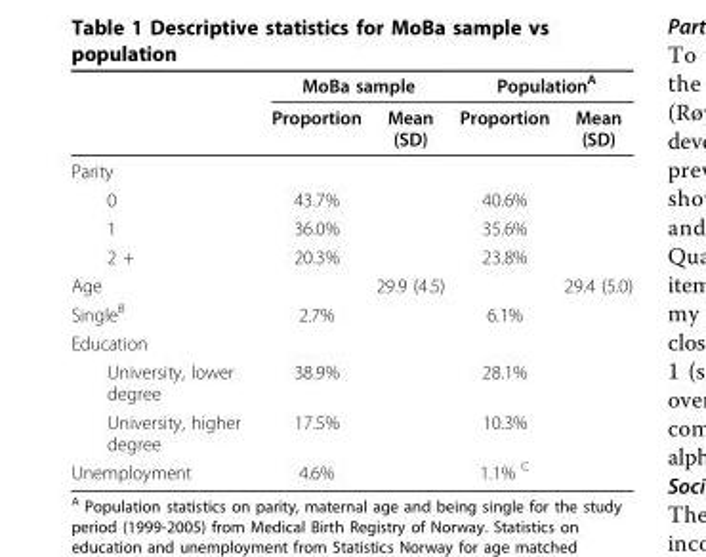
<table><thead><tr><td rowspan="2"></td><td colspan="2">MoBa sample</td><td colspan="2">Population<sup>A</sup></td></tr><tr><td>Proportion</td><td>Mean (SD)</td><td>Proportion</td><td>Mean (SD)</td></tr></thead><tbody><tr><td colspan="5">Parity</td></tr><tr><td>0</td><td>43.7%</td><td></td><td>40.6%</td><td></td></tr><tr><td>1</td><td>36.0%</td><td></td><td>35.6%</td><td></td></tr><tr><td>2 +</td><td>20.3%</td><td></td><td>23.8%</td><td></td></tr><tr><td>Age</td><td></td><td>29.9 (4.5)</td><td></td><td>29.4 (5.0)</td></tr><tr><td>Single<sup>B</sup></td><td>2.7%</td><td></td><td>6.1%</td><td></td></tr><tr><td colspan="5">Education</td></tr><tr><td>University, lower degree</td><td>38.9%</td><td></td><td>28.1%</td><td></td></tr><tr><td>University, higher degree</td><td>17.5%</td><td></td><td>10.3%</td><td></td></tr><tr><td>Unemployment</td><td>4.6%</td><td></td><td>1.1% <sup>C</sup></td><td></td></tr></tbody></table>